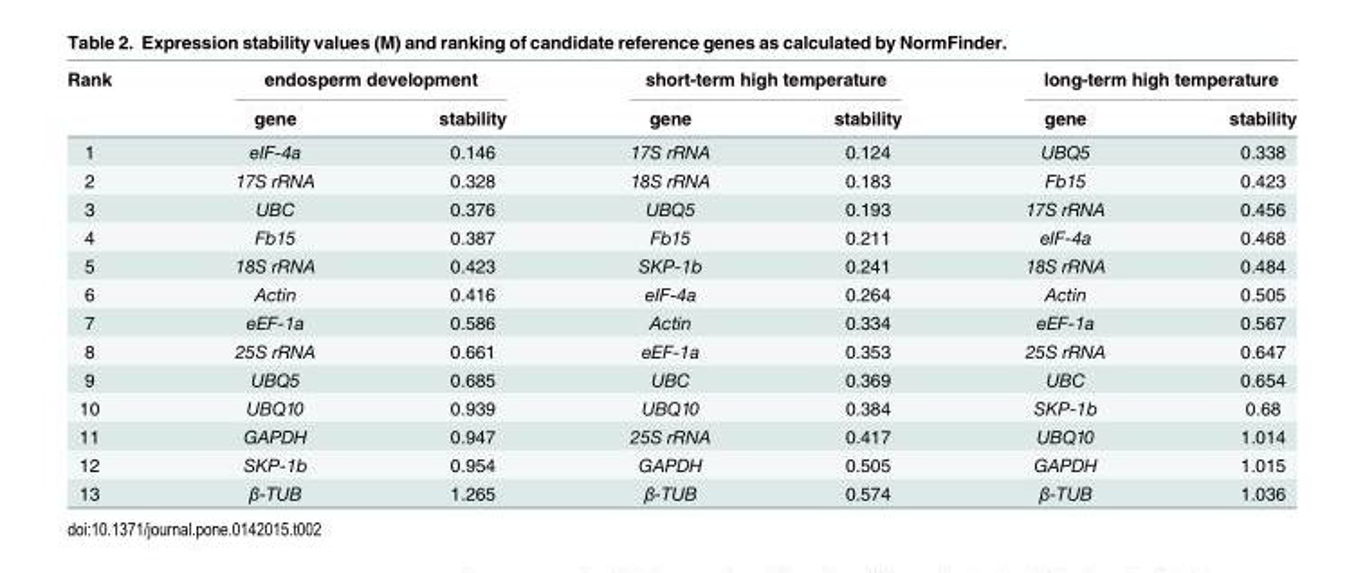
<table><thead><tr><td rowspan="2">Rank</td><td colspan="2">endosperm development</td><td colspan="2">short-term high temperature</td><td colspan="2">long-term high temperature</td></tr><tr><td>gene</td><td>stability</td><td>gene</td><td>stability</td><td>gene</td><td>stability</td></tr></thead><tbody><tr><td>1</td><td>eIF-4a</td><td>0.146</td><td>17S rRNA</td><td>0.124</td><td>UBQ5</td><td>0.338</td></tr><tr><td>2</td><td>17S rRNA</td><td>0.328</td><td>18S rRNA</td><td>0.183</td><td>Fb15</td><td>0.423</td></tr><tr><td>3</td><td>UBC</td><td>0.376</td><td>UBQ5</td><td>0.193</td><td>17S rRNA</td><td>0.456</td></tr><tr><td>4</td><td>Fb15</td><td>0.387</td><td>Fb15</td><td>0.211</td><td>eIF-4a</td><td>0.468</td></tr><tr><td>5</td><td>18S rRNA</td><td>0.423</td><td>SKP-1b</td><td>0.241</td><td>18S rRNA</td><td>0.484</td></tr><tr><td>6</td><td>Actin</td><td>0.416</td><td>eIF-4a</td><td>0.264</td><td>Actin</td><td>0.505</td></tr><tr><td>7</td><td>eEF-1a</td><td>0.586</td><td>Actin</td><td>0.334</td><td>eEF-1a</td><td>0.567</td></tr><tr><td>8</td><td>25S rRNA</td><td>0.661</td><td>eEF-1a</td><td>0.353</td><td>25S rRNA</td><td>0.647</td></tr><tr><td>9</td><td>UBQ5</td><td>0.685</td><td>UBC</td><td>0.369</td><td>UBC</td><td>0.654</td></tr><tr><td>10</td><td>UBQ10</td><td>0.939</td><td>UBQ10</td><td>0.384</td><td>SKP-1b</td><td>0.68</td></tr><tr><td>11</td><td>GAPDH</td><td>0.947</td><td>25S rRNA</td><td>0.417</td><td>UBQ10</td><td>1.014</td></tr><tr><td>12</td><td>SKP-1b</td><td>0.954</td><td>GAPDH</td><td>0.505</td><td>GAPDH</td><td>1.015</td></tr><tr><td>13</td><td>β-TUB</td><td>1.265</td><td>β-TUB</td><td>0.574</td><td>β-TUB</td><td>1.036</td></tr></tbody></table>